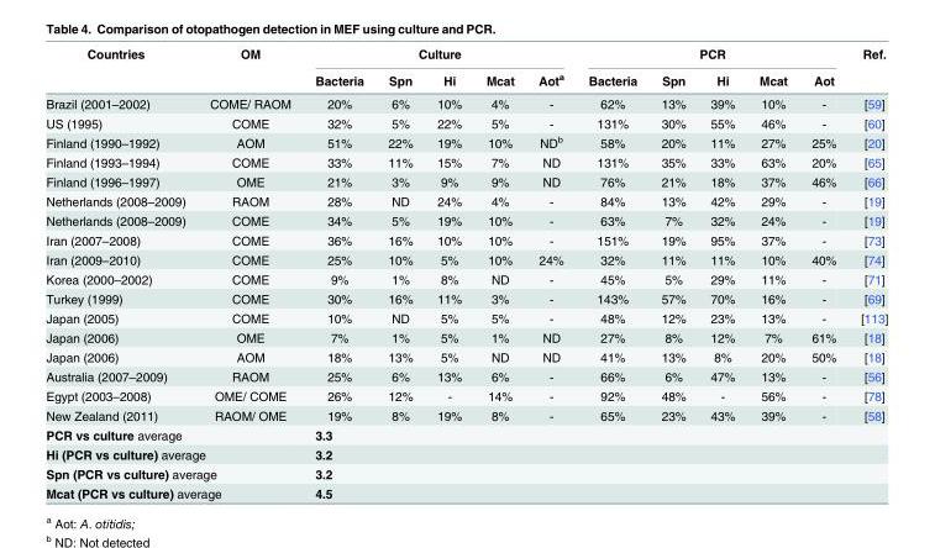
<table><thead><tr><td rowspan="2">Countries</td><td rowspan="2">OM</td><td colspan="5">Culture</td><td colspan="5">PCR</td><td rowspan="2">Ref.</td></tr><tr><td>Bacteria</td><td>Spn</td><td>Hi</td><td>Mcat</td><td>Aot<sup>a</sup></td><td>Bacteria</td><td>Spn</td><td>Hi</td><td>Mcat</td><td>Aot</td></tr></thead><tbody><tr><td>Brazil (2001–2002)</td><td>COME/ RAOM</td><td>20%</td><td>6%</td><td>10%</td><td>4%</td><td>-</td><td>62%</td><td>13%</td><td>39%</td><td>10%</td><td>-</td><td>[59]</td></tr><tr><td>US (1995)</td><td>COME</td><td>32%</td><td>5%</td><td>22%</td><td>5%</td><td>-</td><td>131%</td><td>30%</td><td>55%</td><td>46%</td><td>-</td><td>[60]</td></tr><tr><td>Finland (1990–1992)</td><td>AOM</td><td>51%</td><td>22%</td><td>19%</td><td>10%</td><td>ND<sup>b</sup></td><td>58%</td><td>20%</td><td>11%</td><td>27%</td><td>25%</td><td>[20]</td></tr><tr><td>Finland (1993–1994)</td><td>COME</td><td>33%</td><td>11%</td><td>15%</td><td>7%</td><td>ND</td><td>131%</td><td>35%</td><td>33%</td><td>63%</td><td>20%</td><td>[65]</td></tr><tr><td>Finland (1996–1997)</td><td>OME</td><td>21%</td><td>3%</td><td>9%</td><td>9%</td><td>ND</td><td>76%</td><td>21%</td><td>18%</td><td>37%</td><td>46%</td><td>[66]</td></tr><tr><td>Netherlands (2008–2009)</td><td>RAOM</td><td>28%</td><td>ND</td><td>24%</td><td>4%</td><td>-</td><td>84%</td><td>13%</td><td>42%</td><td>29%</td><td>-</td><td>[19]</td></tr><tr><td>Netherlands (2008–2009)</td><td>COME</td><td>34%</td><td>5%</td><td>19%</td><td>10%</td><td>-</td><td>63%</td><td>7%</td><td>32%</td><td>24%</td><td>-</td><td>[19]</td></tr><tr><td>Iran (2007–2008)</td><td>COME</td><td>36%</td><td>16%</td><td>10%</td><td>10%</td><td>-</td><td>151%</td><td>19%</td><td>95%</td><td>37%</td><td>-</td><td>[73]</td></tr><tr><td>Iran (2009–2010)</td><td>COME</td><td>25%</td><td>10%</td><td>5%</td><td>10%</td><td>24%</td><td>32%</td><td>11%</td><td>11%</td><td>10%</td><td>40%</td><td>[74]</td></tr><tr><td>Korea (2000–2002)</td><td>COME</td><td>9%</td><td>1%</td><td>8%</td><td>ND</td><td>-</td><td>45%</td><td>5%</td><td>29%</td><td>11%</td><td>-</td><td>[71]</td></tr><tr><td>Turkey (1999)</td><td>COME</td><td>30%</td><td>16%</td><td>11%</td><td>3%</td><td>-</td><td>143%</td><td>57%</td><td>70%</td><td>16%</td><td>-</td><td>[69]</td></tr><tr><td>Japan (2005)</td><td>COME</td><td>10%</td><td>ND</td><td>5%</td><td>5%</td><td>-</td><td>48%</td><td>12%</td><td>23%</td><td>13%</td><td>-</td><td>[113]</td></tr><tr><td>Japan (2006)</td><td>OME</td><td>7%</td><td>1%</td><td>5%</td><td>1%</td><td>ND</td><td>27%</td><td>8%</td><td>12%</td><td>7%</td><td>61%</td><td>[18]</td></tr><tr><td>Japan (2006)</td><td>AOM</td><td>18%</td><td>13%</td><td>5%</td><td>ND</td><td>ND</td><td>41%</td><td>13%</td><td>8%</td><td>20%</td><td>50%</td><td>[18]</td></tr><tr><td>Australia (2007–2009)</td><td>RAOM</td><td>25%</td><td>6%</td><td>13%</td><td>6%</td><td>-</td><td>66%</td><td>6%</td><td>47%</td><td>13%</td><td>-</td><td>[56]</td></tr><tr><td>Egypt (2003–2008)</td><td>OME/ COME</td><td>26%</td><td>12%</td><td>-</td><td>14%</td><td>-</td><td>92%</td><td>48%</td><td>-</td><td>56%</td><td>-</td><td>[78]</td></tr><tr><td>New Zealand (2011)</td><td>RAOM/ OME</td><td>19%</td><td>8%</td><td>19%</td><td>8%</td><td>-</td><td>65%</td><td>23%</td><td>43%</td><td>39%</td><td>-</td><td>[58]</td></tr><tr><td colspan="2">PCR vs culture average</td><td colspan="11">3.3</td></tr><tr><td colspan="2">Hi (PCR vs culture) average</td><td colspan="11">3.2</td></tr><tr><td colspan="2">Spn (PCR vs culture) average</td><td colspan="11">3.2</td></tr><tr><td colspan="2">Mcat (PCR vs culture) average</td><td colspan="11">4.5</td></tr></tbody></table>